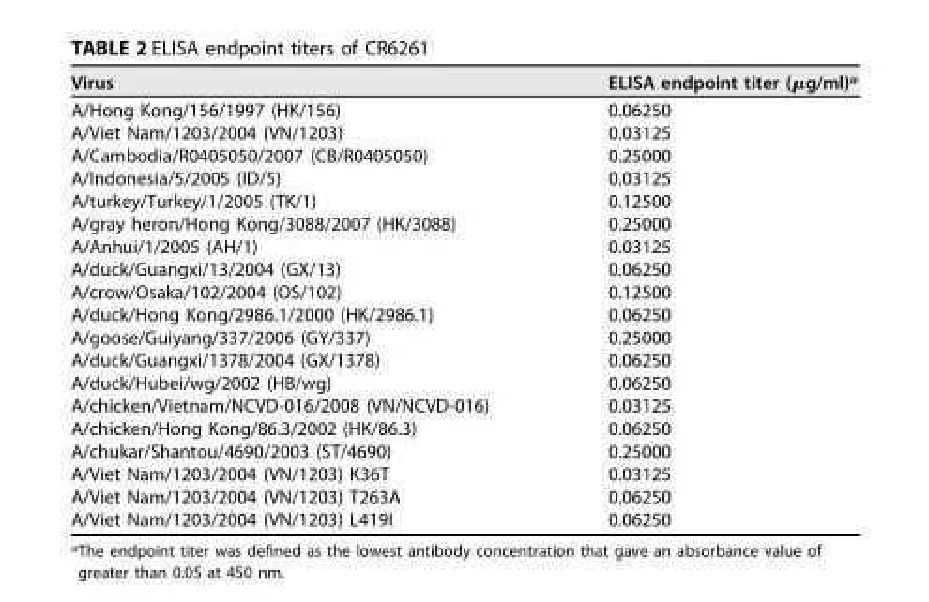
<table><thead><tr><td>Virus</td><td>ELISA endpoint titer (μg/ml)<sup>a</sup></td></tr></thead><tbody><tr><td>A/Hong Kong/156/1997 (HK/156)</td><td>0.06250</td></tr><tr><td>A/Viet Nam/1203/2004 (VN/1203)</td><td>0.03125</td></tr><tr><td>A/Cambodia/R0405050/2007 (CB/R0405050)</td><td>0.25000</td></tr><tr><td>A/Indonesia/5/2005 (ID/5)</td><td>0.03125</td></tr><tr><td>A/turkey/Turkey/1/2005 (TK/1)</td><td>0.12500</td></tr><tr><td>A/gray heron/Hong Kong/3088/2007 (HK/3088)</td><td>0.25000</td></tr><tr><td>A/Anhui/1/2005 (AH/1)</td><td>0.03125</td></tr><tr><td>A/duck/Guangxi/13/2004 (GX/13)</td><td>0.06250</td></tr><tr><td>A/crow/Osaka/102/2004 (OS/102)</td><td>0.12500</td></tr><tr><td>A/duck/Hong Kong/2986.1/2000 (HK/2986.1)</td><td>0.06250</td></tr><tr><td>A/goose/Guiyang/337/2006 (GY/337)</td><td>0.25000</td></tr><tr><td>A/duck/Guangxi/1378/2004 (GX/1378)</td><td>0.06250</td></tr><tr><td>A/duck/Hubei/wg/2002 (HB/wg)</td><td>0.06250</td></tr><tr><td>A/chicken/Vietnam/NCVD-016/2008 (VN/NCVD-016)</td><td>0.03125</td></tr><tr><td>A/chicken/Hong Kong/86.3/2002 (HK/86.3)</td><td>0.06250</td></tr><tr><td>A/chukar/Shantou/4690/2003 (ST/4690)</td><td>0.25000</td></tr><tr><td>A/Viet Nam/1203/2004 (VN/1203) K36T</td><td>0.03125</td></tr><tr><td>A/Viet Nam/1203/2004 (VN/1203) T263A</td><td>0.06250</td></tr><tr><td>A/Viet Nam/1203/2004 (VN/1203) L419I</td><td>0.06250</td></tr></tbody></table>